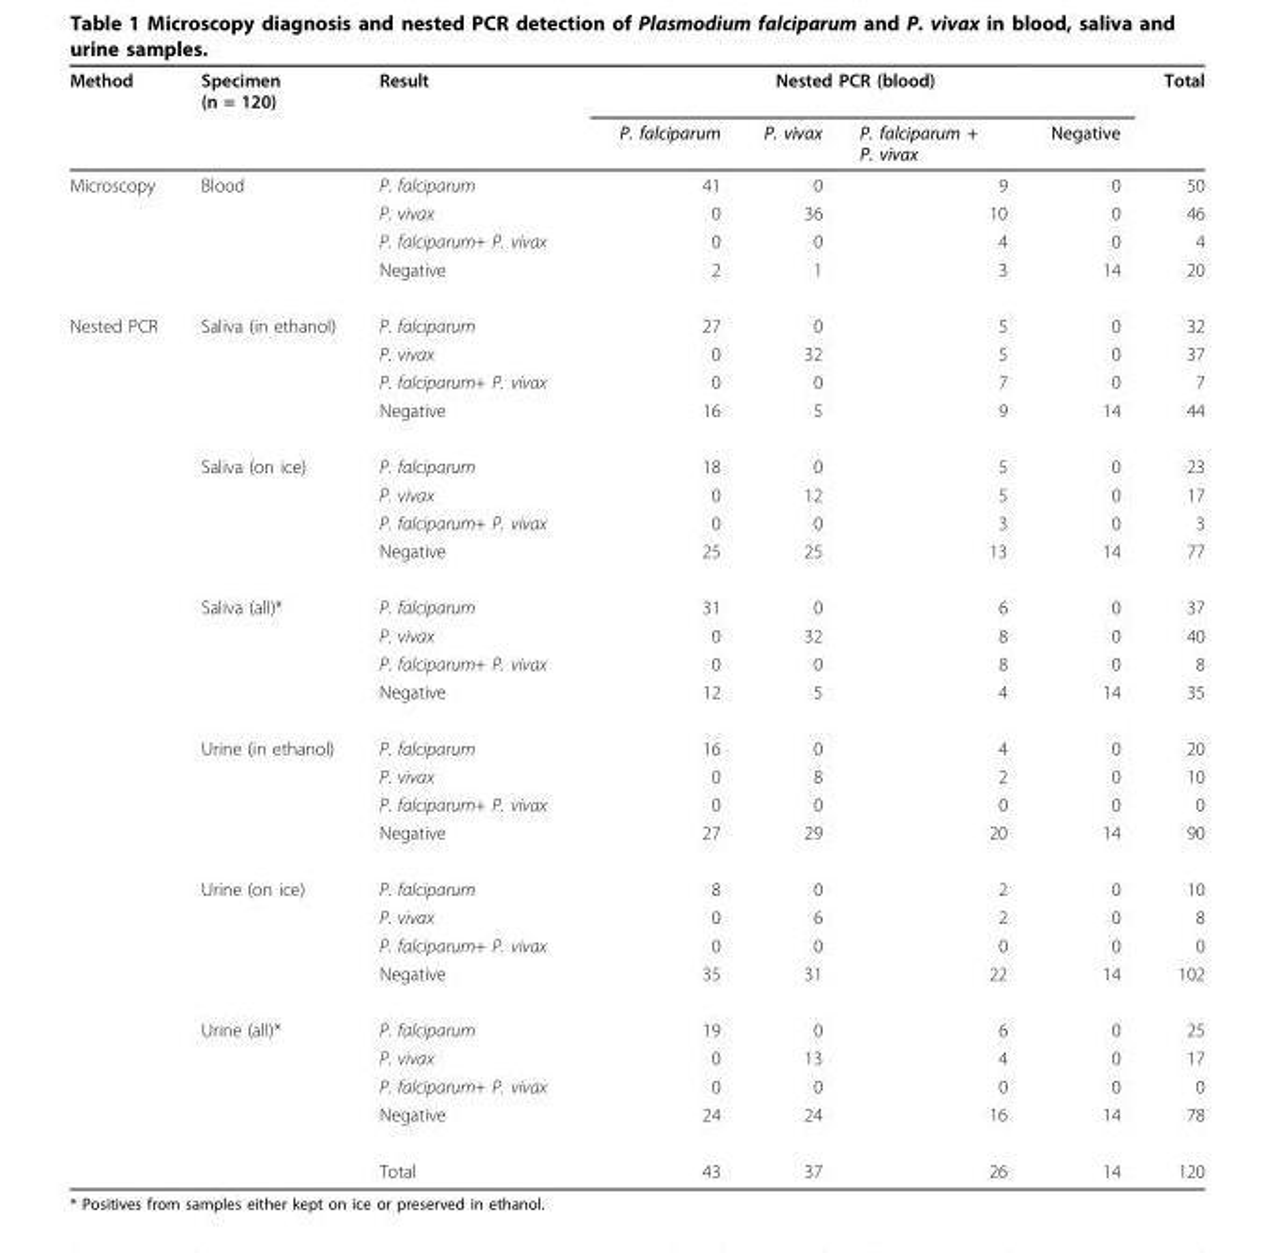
<table><thead><tr><td rowspan="2">Method</td><td rowspan="2">Specimen (n = 120)</td><td rowspan="2">Result</td><td colspan="4">Nested PCR (blood)</td><td rowspan="2">Total</td></tr><tr><td>P. falciparum</td><td>P. vivax</td><td>P. falciparum + P. vivax</td><td>Negative</td></tr></thead><tbody><tr><td rowspan="4">Microscopy</td><td>Blood</td><td>P. falciparum</td><td>41</td><td>0</td><td>9</td><td>0</td><td>50</td></tr><tr><td></td><td>P. vivax</td><td>0</td><td>36</td><td>10</td><td>0</td><td>46</td></tr><tr><td></td><td>P. falciparum+ P. vivax</td><td>0</td><td>0</td><td>4</td><td>0</td><td>4</td></tr><tr><td></td><td>Negative</td><td>2</td><td>1</td><td>3</td><td>14</td><td>20</td></tr><tr><td rowspan="25">Nested PCR</td><td>Saliva (in ethanol)</td><td>P. falciparum</td><td>27</td><td>0</td><td>5</td><td>0</td><td>32</td></tr><tr><td></td><td>P. vivax</td><td>0</td><td>32</td><td>5</td><td>0</td><td>37</td></tr><tr><td></td><td>P. falciparum+ P. vivax</td><td>0</td><td>0</td><td>7</td><td>0</td><td>7</td></tr><tr><td></td><td>Negative</td><td>16</td><td>5</td><td>9</td><td>14</td><td>44</td></tr><tr><td>Saliva (on ice)</td><td>P. falciparum</td><td>18</td><td>0</td><td>5</td><td>0</td><td>23</td></tr><tr><td></td><td>P. vivax</td><td>0</td><td>12</td><td>5</td><td>0</td><td>17</td></tr><tr><td></td><td>P. falciparum+ P. vivax</td><td>0</td><td>0</td><td>3</td><td>0</td><td>3</td></tr><tr><td></td><td>Negative</td><td>25</td><td>25</td><td>13</td><td>14</td><td>77</td></tr><tr><td>Saliva (all)*</td><td>P. falciparum</td><td>31</td><td>0</td><td>6</td><td>0</td><td>37</td></tr><tr><td></td><td>P. vivax</td><td>0</td><td>32</td><td>8</td><td>0</td><td>40</td></tr><tr><td></td><td>P. falciparum+ P. vivax</td><td>0</td><td>0</td><td>8</td><td>0</td><td>8</td></tr><tr><td></td><td>Negative</td><td>12</td><td>5</td><td>4</td><td>14</td><td>35</td></tr><tr><td>Urine (in ethanol)</td><td>P. falciparum</td><td>16</td><td>0</td><td>4</td><td>0</td><td>20</td></tr><tr><td></td><td>P. vivax</td><td>0</td><td>8</td><td>2</td><td>0</td><td>10</td></tr><tr><td></td><td>P. falciparum+ P. vivax</td><td>0</td><td>0</td><td>0</td><td>0</td><td>0</td></tr><tr><td></td><td>Negative</td><td>27</td><td>29</td><td>20</td><td>14</td><td>90</td></tr><tr><td>Urine (on ice)</td><td>P. falciparum</td><td>8</td><td>0</td><td>2</td><td>0</td><td>10</td></tr><tr><td></td><td>P. vivax</td><td>0</td><td>6</td><td>2</td><td>0</td><td>8</td></tr><tr><td></td><td>P. falciparum+ P. vivax</td><td>0</td><td>0</td><td>0</td><td>0</td><td>0</td></tr><tr><td></td><td>Negative</td><td>35</td><td>31</td><td>22</td><td>14</td><td>102</td></tr><tr><td>Urine (all)*</td><td>P. falciparum</td><td>19</td><td>0</td><td>6</td><td>0</td><td>25</td></tr><tr><td></td><td>P. vivax</td><td>0</td><td>13</td><td>4</td><td>0</td><td>17</td></tr><tr><td></td><td>P. falciparum+ P. vivax</td><td>0</td><td>0</td><td>0</td><td>0</td><td>0</td></tr><tr><td></td><td>Negative</td><td>24</td><td>24</td><td>16</td><td>14</td><td>78</td></tr><tr><td></td><td>Total</td><td>43</td><td>37</td><td>26</td><td>14</td><td>120</td></tr></tbody></table>